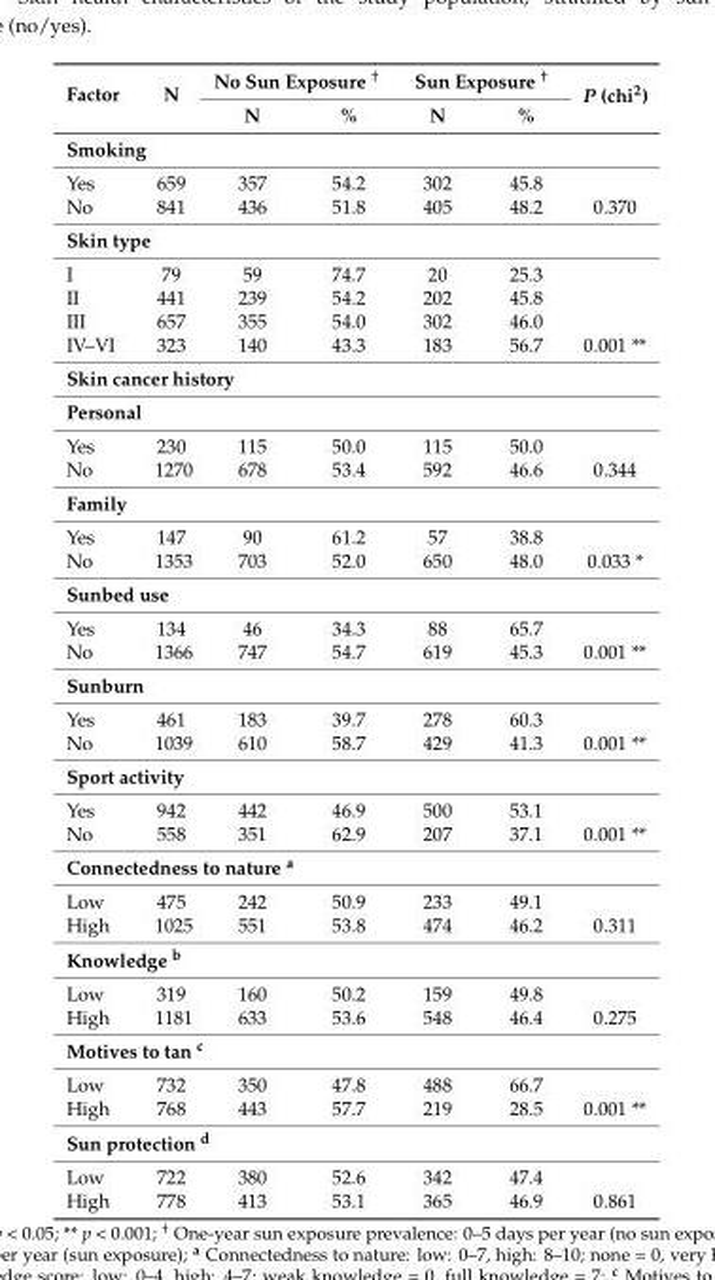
<table><thead><tr><td rowspan="2">Factor</td><td rowspan="2">N</td><td colspan="2">No Sun Exposure <sup>†</sup></td><td colspan="2">Sun Exposure <sup>†</sup></td><td rowspan="2">P (chi<sup>2</sup>)</td></tr><tr><td>N</td><td>%</td><td>N</td><td>%</td></tr></thead><tbody><tr><td colspan="7">Smoking</td></tr><tr><td>Yes</td><td>659</td><td>357</td><td>54.2</td><td>302</td><td>45.8</td><td></td></tr><tr><td>No</td><td>841</td><td>436</td><td>51.8</td><td>405</td><td>48.2</td><td>0.370</td></tr><tr><td colspan="7">Skin type</td></tr><tr><td>I</td><td>79</td><td>59</td><td>74.7</td><td>20</td><td>25.3</td><td></td></tr><tr><td>II</td><td>441</td><td>239</td><td>54.2</td><td>202</td><td>45.8</td><td></td></tr><tr><td>III</td><td>657</td><td>355</td><td>54.0</td><td>302</td><td>46.0</td><td></td></tr><tr><td>IV–VI</td><td>323</td><td>140</td><td>43.3</td><td>183</td><td>56.7</td><td>0.001 **</td></tr><tr><td colspan="7">Skin cancer history</td></tr><tr><td colspan="7">Personal</td></tr><tr><td>Yes</td><td>230</td><td>115</td><td>50.0</td><td>115</td><td>50.0</td><td></td></tr><tr><td>No</td><td>1270</td><td>678</td><td>53.4</td><td>592</td><td>46.6</td><td>0.344</td></tr><tr><td colspan="7">Family</td></tr><tr><td>Yes</td><td>147</td><td>90</td><td>61.2</td><td>57</td><td>38.8</td><td></td></tr><tr><td>No</td><td>1353</td><td>703</td><td>52.0</td><td>650</td><td>48.0</td><td>0.033 *</td></tr><tr><td colspan="7">Sunbed use</td></tr><tr><td>Yes</td><td>134</td><td>46</td><td>34.3</td><td>88</td><td>65.7</td><td></td></tr><tr><td>No</td><td>1366</td><td>747</td><td>54.7</td><td>619</td><td>45.3</td><td>0.001 **</td></tr><tr><td colspan="7">Sunburn</td></tr><tr><td>Yes</td><td>461</td><td>183</td><td>39.7</td><td>278</td><td>60.3</td><td></td></tr><tr><td>No</td><td>1039</td><td>610</td><td>58.7</td><td>429</td><td>41.3</td><td>0.001 **</td></tr><tr><td colspan="7">Sport activity</td></tr><tr><td>Yes</td><td>942</td><td>442</td><td>46.9</td><td>500</td><td>53.1</td><td></td></tr><tr><td>No</td><td>558</td><td>351</td><td>62.9</td><td>207</td><td>37.1</td><td>0.001 **</td></tr><tr><td colspan="7">Connectedness to nature <sup>a</sup></td></tr><tr><td>Low</td><td>475</td><td>242</td><td>50.9</td><td>233</td><td>49.1</td><td></td></tr><tr><td>High</td><td>1025</td><td>551</td><td>53.8</td><td>474</td><td>46.2</td><td>0.311</td></tr><tr><td colspan="7">Knowledge <sup>b</sup></td></tr><tr><td>Low</td><td>319</td><td>160</td><td>50.2</td><td>159</td><td>49.8</td><td></td></tr><tr><td>High</td><td>1181</td><td>633</td><td>53.6</td><td>548</td><td>46.4</td><td>0.275</td></tr><tr><td colspan="7">Motives to tan <sup>c</sup></td></tr><tr><td>Low</td><td>732</td><td>350</td><td>47.8</td><td>488</td><td>66.7</td><td></td></tr><tr><td>High</td><td>768</td><td>443</td><td>57.7</td><td>219</td><td>28.5</td><td>0.001 **</td></tr><tr><td colspan="7">Sun protection <sup>d</sup></td></tr><tr><td>Low</td><td>722</td><td>380</td><td>52.6</td><td>342</td><td>47.4</td><td></td></tr><tr><td>High</td><td>778</td><td>413</td><td>53.1</td><td>365</td><td>46.9</td><td>0.861</td></tr></tbody></table>